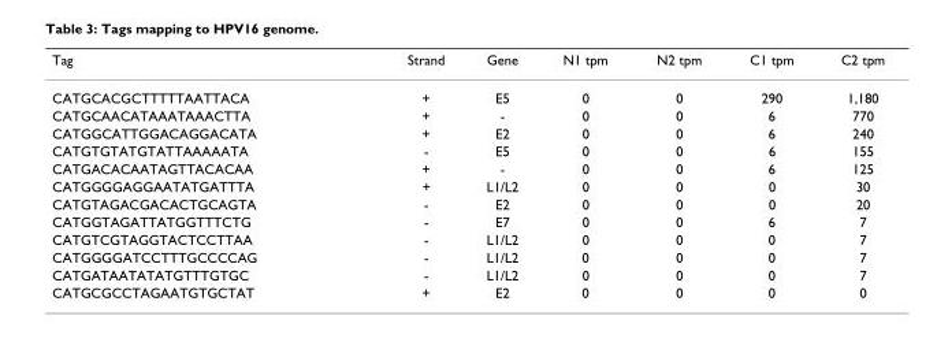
<table><thead><tr><td>Tag</td><td>Strand</td><td>Gene</td><td>N1 tpm</td><td>N2 tpm</td><td>C1 tpm</td><td>C2 tpm</td></tr></thead><tbody><tr><td>CATGCACGCTTTTTAATTACA</td><td>+</td><td>E5</td><td>0</td><td>0</td><td>290</td><td>1,180</td></tr><tr><td>CATGCAACATAAATAAACTTA</td><td>+</td><td>-</td><td>0</td><td>0</td><td>6</td><td>770</td></tr><tr><td>CATGGCATTGGACAGGACATA</td><td>+</td><td>E2</td><td>0</td><td>0</td><td>6</td><td>240</td></tr><tr><td>CATGTGTATGTATTAAAAATA</td><td>-</td><td>E5</td><td>0</td><td>0</td><td>6</td><td>155</td></tr><tr><td>CATGACACAATAGTTACACAA</td><td>+</td><td>-</td><td>0</td><td>0</td><td>6</td><td>125</td></tr><tr><td>CATGGGGAGGAATATGATTTA</td><td>+</td><td>L1/L2</td><td>0</td><td>0</td><td>0</td><td>30</td></tr><tr><td>CATGTAGACGACACTGCAGTA</td><td>-</td><td>E2</td><td>0</td><td>0</td><td>0</td><td>20</td></tr><tr><td>CATGGTAGATTATGGTTTCTG</td><td>-</td><td>E7</td><td>0</td><td>0</td><td>6</td><td>7</td></tr><tr><td>CATGTCGTAGGTACTCCTTAA</td><td>-</td><td>L1/L2</td><td>0</td><td>0</td><td>0</td><td>7</td></tr><tr><td>CATGGGGATCCTTTGCCCCAG</td><td>-</td><td>L1/L2</td><td>0</td><td>0</td><td>0</td><td>7</td></tr><tr><td>CATGATAATATATGTTTGTGC</td><td>-</td><td>L1/L2</td><td>0</td><td>0</td><td>0</td><td>7</td></tr><tr><td>CATGCGCCTAGAATGTGCTAT</td><td>+</td><td>E2</td><td>0</td><td>0</td><td>0</td><td>0</td></tr></tbody></table>